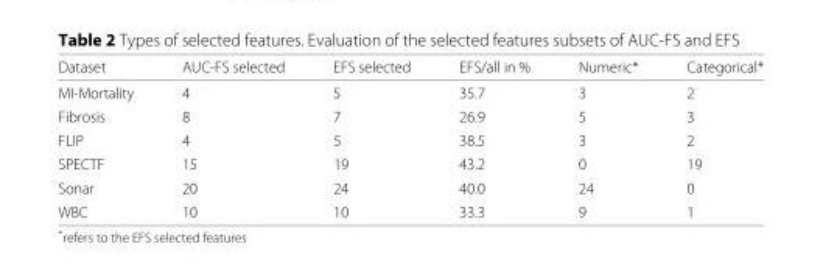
<table><thead><tr><td>Dataset</td><td>AUC-FS selected</td><td>EFS selected</td><td>EFS/all in %</td><td>Numeric*</td><td>Categorical*</td></tr></thead><tbody><tr><td>MI-Mortality</td><td>4</td><td>5</td><td>35.7</td><td>3</td><td>2</td></tr><tr><td>Fibrosis</td><td>8</td><td>7</td><td>26.9</td><td>5</td><td>3</td></tr><tr><td>FLIP</td><td>4</td><td>5</td><td>38.5</td><td>3</td><td>2</td></tr><tr><td>SPECTF</td><td>15</td><td>19</td><td>43.2</td><td>0</td><td>19</td></tr><tr><td>Sonar</td><td>20</td><td>24</td><td>40.0</td><td>24</td><td>0</td></tr><tr><td>WBC</td><td>10</td><td>10</td><td>33.3</td><td>9</td><td>1</td></tr></tbody></table>